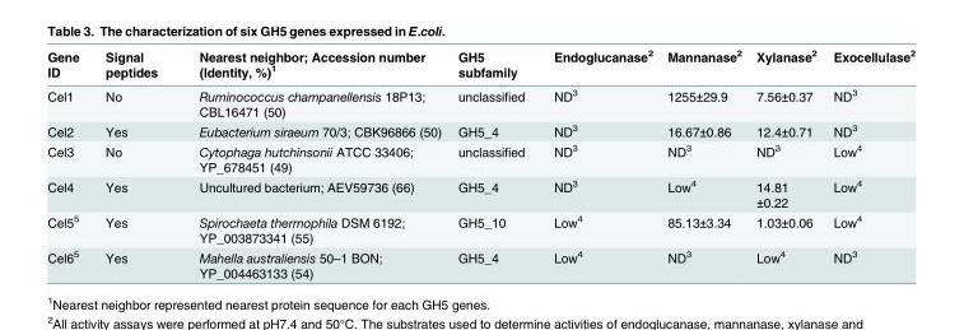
<table><thead><tr><td>Gene ID</td><td>Signal peptides</td><td>Nearest neighbor; Accession number (Identity, %)<sup>1</sup></td><td>GH5 subfamily</td><td>Endoglucanase<sup>2</sup></td><td>Mannanase<sup>2</sup></td><td>Xylanase<sup>2</sup></td><td>Exocellulase<sup>2</sup></td></tr></thead><tbody><tr><td>Cel1</td><td>No</td><td>Ruminococcus champanellensis 18P13; CBL16471 (50)</td><td>unclassified</td><td>ND<sup>3</sup></td><td>1255±29.9</td><td>7.56±0.37</td><td>ND<sup>3</sup></td></tr><tr><td>Cel2</td><td>Yes</td><td>Eubacterium siraeum 70/3; CBK96866 (50)</td><td>GH5_4</td><td>ND<sup>3</sup></td><td>16.67±0.86</td><td>12.4±0.71</td><td>ND<sup>3</sup></td></tr><tr><td>Cel3</td><td>No</td><td>Cytophaga hutchinsonii ATCC 33406; YP_678451 (49)</td><td>unclassified</td><td>ND<sup>3</sup></td><td>ND<sup>3</sup></td><td>ND<sup>3</sup></td><td>Low<sup>4</sup></td></tr><tr><td>Cel4</td><td>Yes</td><td>Uncultured bacterium; AEV59736 (66)</td><td>GH5_4</td><td>ND<sup>3</sup></td><td>Low<sup>4</sup></td><td>14.81 ±0.22</td><td>Low<sup>4</sup></td></tr><tr><td>Cel5<sup>5</sup></td><td>Yes</td><td>Spirochaeta thermophila DSM 6192; YP_003873341 (55)</td><td>GH5_10</td><td>Low<sup>4</sup></td><td>85.13±3.34</td><td>1.03±0.06</td><td>Low<sup>4</sup></td></tr><tr><td>Cel6<sup>5</sup></td><td>Yes</td><td>Mahella australiensis 50–1 BON; YP_004463133 (54)</td><td>GH5_4</td><td>Low<sup>4</sup></td><td>ND<sup>3</sup></td><td>Low<sup>4</sup></td><td>ND<sup>3</sup></td></tr></tbody></table>